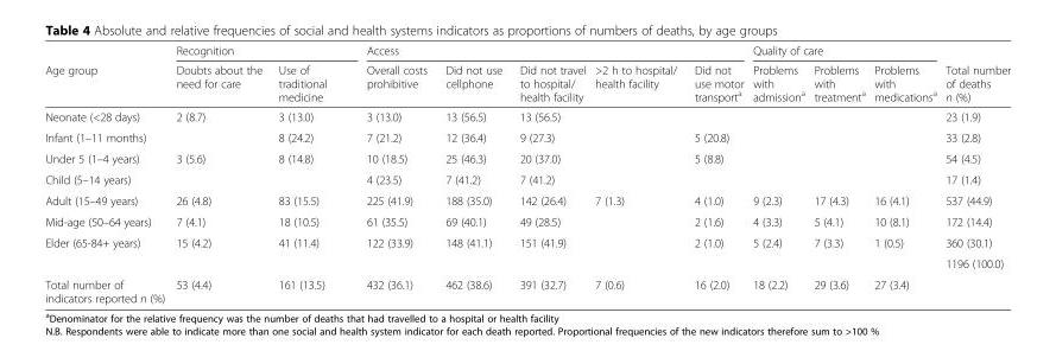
<table><thead><tr><td rowspan="2">Age group</td><td colspan="2">Recognition</td><td colspan="5">Access</td><td colspan="3">Quality of care</td><td rowspan="2">Total number of deaths n (%)</td></tr><tr><td>Doubts about the need for care</td><td>Use of traditional medicine</td><td>Overall costs prohibitive</td><td>Did not use cellphone</td><td>Did not travel to hospital/ health facility</td><td>&gt;2 h to hospital/ health facility</td><td>Did not use motor transport<sup>a</sup></td><td>Problems with admission<sup>a</sup></td><td>Problems with treatment<sup>a</sup></td><td>Problems with medications<sup>a</sup></td></tr></thead><tbody><tr><td>Neonate (&lt;28 days)</td><td>2 (8.7)</td><td>3 (13.0)</td><td>3 (13.0)</td><td>13 (56.5)</td><td>13 (56.5)</td><td></td><td></td><td></td><td></td><td></td><td>23 (1.9)</td></tr><tr><td>Infant (1–11 months)</td><td></td><td>8 (24.2)</td><td>7 (21.2)</td><td>12 (36.4)</td><td>9 (27.3)</td><td></td><td>5 (20.8)</td><td></td><td></td><td></td><td>33 (2.8)</td></tr><tr><td>Under 5 (1–4 years)</td><td>3 (5.6)</td><td>8 (14.8)</td><td>10 (18.5)</td><td>25 (46.3)</td><td>20 (37.0)</td><td></td><td>5 (8.8)</td><td></td><td></td><td></td><td>54 (4.5)</td></tr><tr><td>Child (5–14 years)</td><td></td><td></td><td>4 (23.5)</td><td>7 (41.2)</td><td>7 (41.2)</td><td></td><td></td><td></td><td></td><td></td><td>17 (1.4)</td></tr><tr><td>Adult (15–49 years)</td><td>26 (4.8)</td><td>83 (15.5)</td><td>225 (41.9)</td><td>188 (35.0)</td><td>142 (26.4)</td><td>7 (1.3)</td><td>4 (1.0)</td><td>9 (2.3)</td><td>17 (4.3)</td><td>16 (4.1)</td><td>537 (44.9)</td></tr><tr><td>Mid-age (50–64 years)</td><td>7 (4.1)</td><td>18 (10.5)</td><td>61 (35.5)</td><td>69 (40.1)</td><td>49 (28.5)</td><td></td><td>2 (1.6)</td><td>4 (3.3)</td><td>5 (4.1)</td><td>10 (8.1)</td><td>172 (14.4)</td></tr><tr><td rowspan="2">Elder (65-84+ years)</td><td>15 (4.2)</td><td>41 (11.4)</td><td>122 (33.9)</td><td>148 (41.1)</td><td>151 (41.9)</td><td></td><td>2 (1.0)</td><td>5 (2.4)</td><td>7 (3.3)</td><td>1 (0.5)</td><td>360 (30.1)</td></tr><tr><td></td><td></td><td></td><td></td><td></td><td></td><td></td><td></td><td></td><td></td><td>1196 (100.0)</td></tr><tr><td>Total number of indicators reported n (%)</td><td>53 (4.4)</td><td>161 (13.5)</td><td>432 (36.1)</td><td>462 (38.6)</td><td>391 (32.7)</td><td>7 (0.6)</td><td>16 (2.0)</td><td>18 (2.2)</td><td>29 (3.6)</td><td>27 (3.4)</td><td></td></tr></tbody></table>